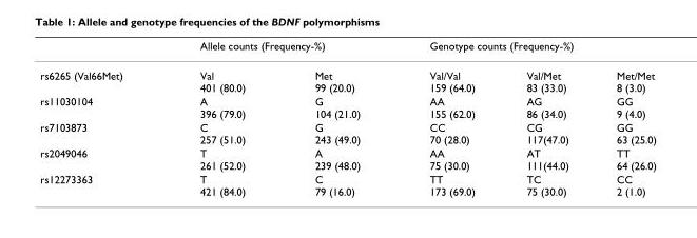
<table><thead><tr><td rowspan="2">rs6265 (Val66Met)</td><td colspan="2">Allele counts (Frequency-%)</td><td colspan="3">Genotype counts (Frequency-%)</td></tr><tr><td>Val 401 (80.0)</td><td>Met 99 (20.0)</td><td>Val/Val 159 (64.0)</td><td>Val/Met 83 (33.0)</td><td>Met/Met 8 (3.0)</td></tr></thead><tbody><tr><td>rs11030104</td><td>A 396 (79.0)</td><td>G 104 (21.0)</td><td>AA 155 (62.0)</td><td>AG 86 (34.0)</td><td>GG 9 (4.0)</td></tr><tr><td>rs7103873</td><td>C 257 (51.0)</td><td>G 243 (49.0)</td><td>CC 70 (28.0)</td><td>CG 117(47.0)</td><td>GG 63 (25.0)</td></tr><tr><td>rs2049046</td><td>T 261 (52.0)</td><td>A 239 (48.0)</td><td>AA 75 (30.0)</td><td>AT 111(44.0)</td><td>TT 64 (26.0)</td></tr><tr><td>rs12273363</td><td>T 421 (84.0)</td><td>C 79 (16.0)</td><td>TT 173 (69.0)</td><td>TC 75 (30.0)</td><td>CC 2 (1.0)</td></tr></tbody></table>